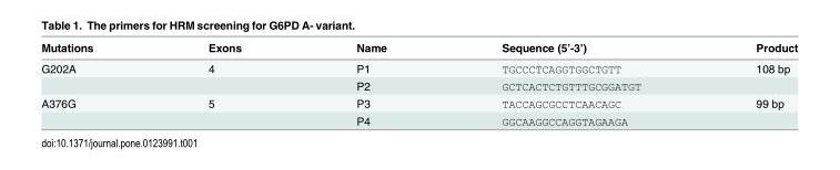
<table><thead><tr><td>Mutations</td><td>Exons</td><td>Name</td><td>Sequence (5’-3’)</td><td>Product</td></tr></thead><tbody><tr><td rowspan="2">G202A</td><td>4</td><td>P1</td><td>TGCCCTCAGGTGGCTGTT</td><td>108 bp</td></tr><tr><td></td><td>P2</td><td>GCTCACTCTGTTTGCGGATGT</td><td></td></tr><tr><td rowspan="2">A376G</td><td>5</td><td>P3</td><td>TACCAGCGCCTCAACAGC</td><td>99 bp</td></tr><tr><td></td><td>P4</td><td>GGCAAGGCCAGGTAGAAGA</td><td></td></tr></tbody></table>